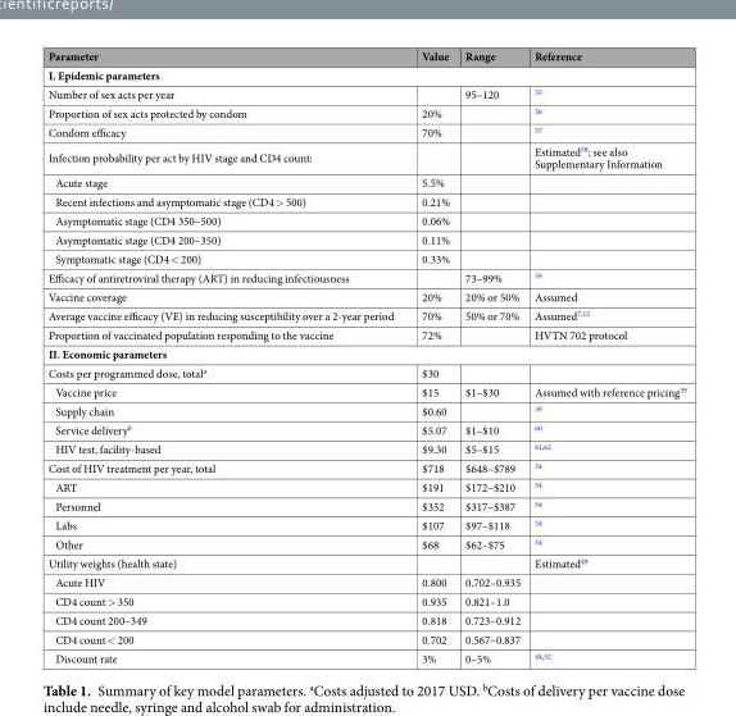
<table><thead><tr><td>Parameter</td><td>Value</td><td>Range</td><td>Reference</td></tr></thead><tbody><tr><td colspan="4">I. Epidemic parameters</td></tr><tr><td>Number of sex acts per year</td><td></td><td>95–120</td><td><sup>55</sup></td></tr><tr><td>Proportion of sex acts protected by condom</td><td>20%</td><td></td><td><sup>56</sup></td></tr><tr><td>Condom efficacy</td><td>70%</td><td></td><td><sup>57</sup></td></tr><tr><td>Infection probability per act by HIV stage and CD4 count:</td><td></td><td></td><td>Estimated<sup>58</sup>; see also Supplementary Information</td></tr><tr><td>Acute stage</td><td>5.5%</td><td></td><td></td></tr><tr><td>Recent infections and asymptomatic stage (CD4 &gt; 500)</td><td>0.21%</td><td></td><td></td></tr><tr><td>Asymptomatic stage (CD4 350–500)</td><td>0.06%</td><td></td><td></td></tr><tr><td>Asymptomatic stage (CD4 200–350)</td><td>0.11%</td><td></td><td></td></tr><tr><td>Symptomatic stage (CD4 &lt; 200)</td><td>0.33%</td><td></td><td></td></tr><tr><td>Efficacy of antiretroviral therapy (ART) in reducing infectiousness</td><td></td><td>73–99%</td><td><sup>59</sup></td></tr><tr><td>Vaccine coverage</td><td>20%</td><td>20% or 50%</td><td>Assumed</td></tr><tr><td>Average vaccine efficacy (VE) in reducing susceptibility over a 2-year period</td><td>70%</td><td>50% or 70%</td><td>Assumed<sup>7,15</sup></td></tr><tr><td>Proportion of vaccinated population responding to the vaccine</td><td>72%</td><td></td><td>HVTN 702 protocol</td></tr><tr><td colspan="4">II. Economic parameters</td></tr><tr><td>Costs per programmed dose, total<sup>a</sup></td><td>$30</td><td></td><td></td></tr><tr><td>Vaccine price</td><td>$15</td><td>$1–$30</td><td>Assumed with reference pricing<sup>39</sup></td></tr><tr><td>Supply chain</td><td>$0.60</td><td></td><td><sup>39</sup></td></tr><tr><td>Service delivery<sup>b</sup></td><td>$5.07</td><td>$1–$10</td><td><sup>60</sup></td></tr><tr><td>HIV test, facility-based</td><td>$9.30</td><td>$5–$15</td><td><sup>61,62</sup></td></tr><tr><td>Cost of HIV treatment per year, total</td><td>$718</td><td>$648–$789</td><td><sup>54</sup></td></tr><tr><td>ART</td><td>$191</td><td>$172–$210</td><td><sup>54</sup></td></tr><tr><td>Personnel</td><td>$352</td><td>$317–$387</td><td><sup>54</sup></td></tr><tr><td>Labs</td><td>$107</td><td>$97–$118</td><td><sup>54</sup></td></tr><tr><td>Other</td><td>$68</td><td>$62–$75</td><td><sup>54</sup></td></tr><tr><td>Utility weights (health state)</td><td></td><td></td><td>Estimated<sup>49</sup></td></tr><tr><td>Acute HIV</td><td>0.800</td><td>0.702–0.935</td><td></td></tr><tr><td>CD4 count &gt; 350</td><td>0.935</td><td>0.821–1.0</td><td></td></tr><tr><td>CD4 count 200–349</td><td>0.818</td><td>0.723–0.912</td><td></td></tr><tr><td>CD4 count &lt; 200</td><td>0.702</td><td>0.567–0.837</td><td></td></tr><tr><td>Discount rate</td><td>3%</td><td>0–5%</td><td><sup>44,52</sup></td></tr></tbody></table>